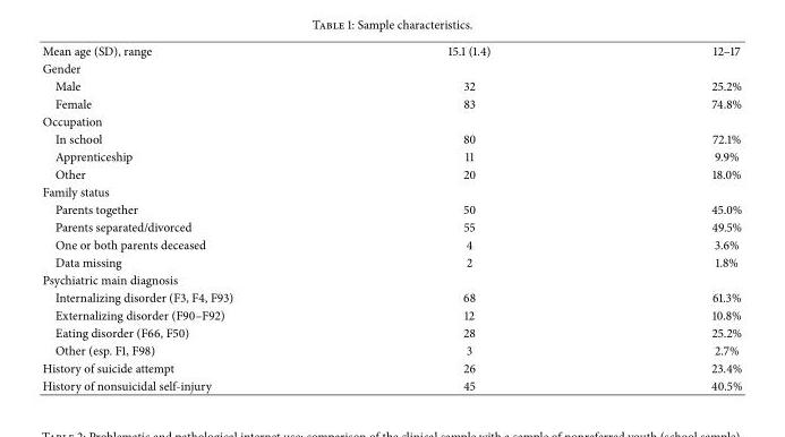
<table><tbody><tr><td>Mean age (SD), range</td><td>15.1 (1.4)</td><td>12–17</td></tr><tr><td colspan="3">Gender</td></tr><tr><td>Male</td><td>32</td><td>25.2%</td></tr><tr><td>Female</td><td>83</td><td>74.8%</td></tr><tr><td colspan="3">Occupation</td></tr><tr><td>In school</td><td>80</td><td>72.1%</td></tr><tr><td>Apprenticeship</td><td>11</td><td>9.9%</td></tr><tr><td>Other</td><td>20</td><td>18.0%</td></tr><tr><td colspan="3">Family status</td></tr><tr><td>Parents together</td><td>50</td><td>45.0%</td></tr><tr><td>Parents separated/divorced</td><td>55</td><td>49.5%</td></tr><tr><td>One or both parents deceased</td><td>4</td><td>3.6%</td></tr><tr><td>Data missing</td><td>2</td><td>1.8%</td></tr><tr><td colspan="3">Psychiatric main diagnosis</td></tr><tr><td>Internalizing disorder (F3, F4, F93)</td><td>68</td><td>61.3%</td></tr><tr><td>Externalizing disorder (F90–F92)</td><td>12</td><td>10.8%</td></tr><tr><td>Eating disorder (F66, F50)</td><td>28</td><td>25.2%</td></tr><tr><td>Other (esp. F1, F98)</td><td>3</td><td>2.7%</td></tr><tr><td>History of suicide attempt</td><td>26</td><td>23.4%</td></tr><tr><td>History of nonsuicidal self-injury</td><td>45</td><td>40.5%</td></tr></tbody></table>